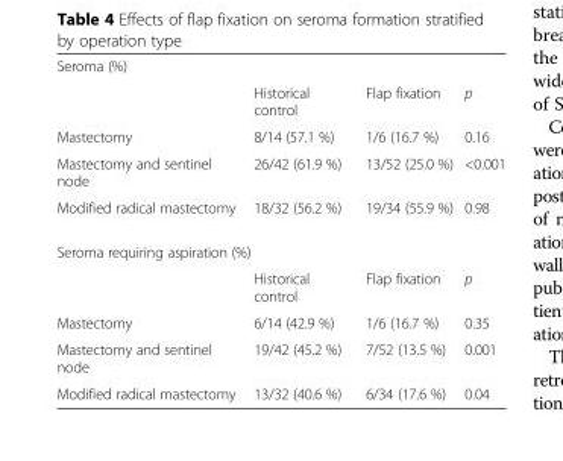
<table><tbody><tr><td colspan="4">Seroma (%)</td></tr><tr><td></td><td>Historical control</td><td>Flap fixation</td><td>p</td></tr><tr><td>Mastectomy</td><td>8/14 (57.1 %)</td><td>1/6 (16.7 %)</td><td>0.16</td></tr><tr><td>Mastectomy and sentinel node</td><td>26/42 (61.9 %)</td><td>13/52 (25.0 %)</td><td>&lt;0.001</td></tr><tr><td>Modified radical mastectomy</td><td>18/32 (56.2 %)</td><td>19/34 (55.9 %)</td><td>0.98</td></tr><tr><td colspan="4">Seroma requiring aspiration (%)</td></tr><tr><td></td><td>Historical control</td><td>Flap fixation</td><td>p</td></tr><tr><td>Mastectomy</td><td>6/14 (42.9 %)</td><td>1/6 (16.7 %)</td><td>0.35</td></tr><tr><td>Mastectomy and sentinel node</td><td>19/42 (45.2 %)</td><td>7/52 (13.5 %)</td><td>0.001</td></tr><tr><td>Modified radical mastectomy</td><td>13/32 (40.6 %)</td><td>6/34 (17.6 %)</td><td>0.04</td></tr></tbody></table>